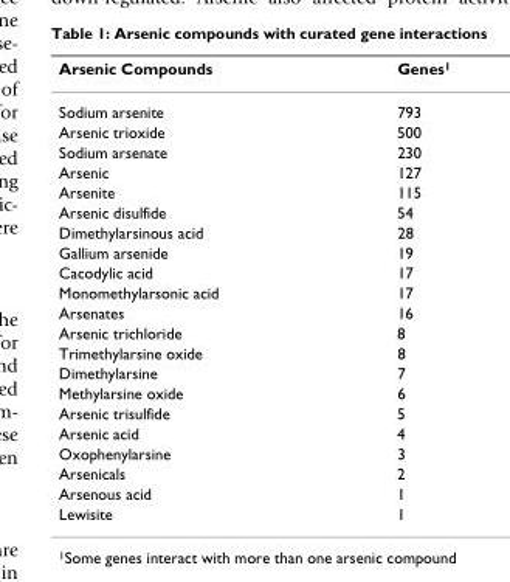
<table><thead><tr><td>Arsenic Compounds</td><td>Genes<sup>1</sup></td></tr></thead><tbody><tr><td>Sodium arsenite</td><td>793</td></tr><tr><td>Arsenic trioxide</td><td>500</td></tr><tr><td>Sodium arsenate</td><td>230</td></tr><tr><td>Arsenic</td><td>127</td></tr><tr><td>Arsenite</td><td>115</td></tr><tr><td>Arsenic disulfide</td><td>54</td></tr><tr><td>Dimethylarsinous acid</td><td>28</td></tr><tr><td>Gallium arsenide</td><td>19</td></tr><tr><td>Cacodylic acid</td><td>17</td></tr><tr><td>Monomethylarsonic acid</td><td>17</td></tr><tr><td>Arsenates</td><td>16</td></tr><tr><td>Arsenic trichloride</td><td>8</td></tr><tr><td>Trimethylarsine oxide</td><td>8</td></tr><tr><td>Dimethylarsine</td><td>7</td></tr><tr><td>Methylarsine oxide</td><td>6</td></tr><tr><td>Arsenic trisulfide</td><td>5</td></tr><tr><td>Arsenic acid</td><td>4</td></tr><tr><td>Oxophenylarsine</td><td>3</td></tr><tr><td>Arsenicals</td><td>2</td></tr><tr><td>Arsenous acid</td><td>1</td></tr><tr><td>Lewisite</td><td>1</td></tr></tbody></table>